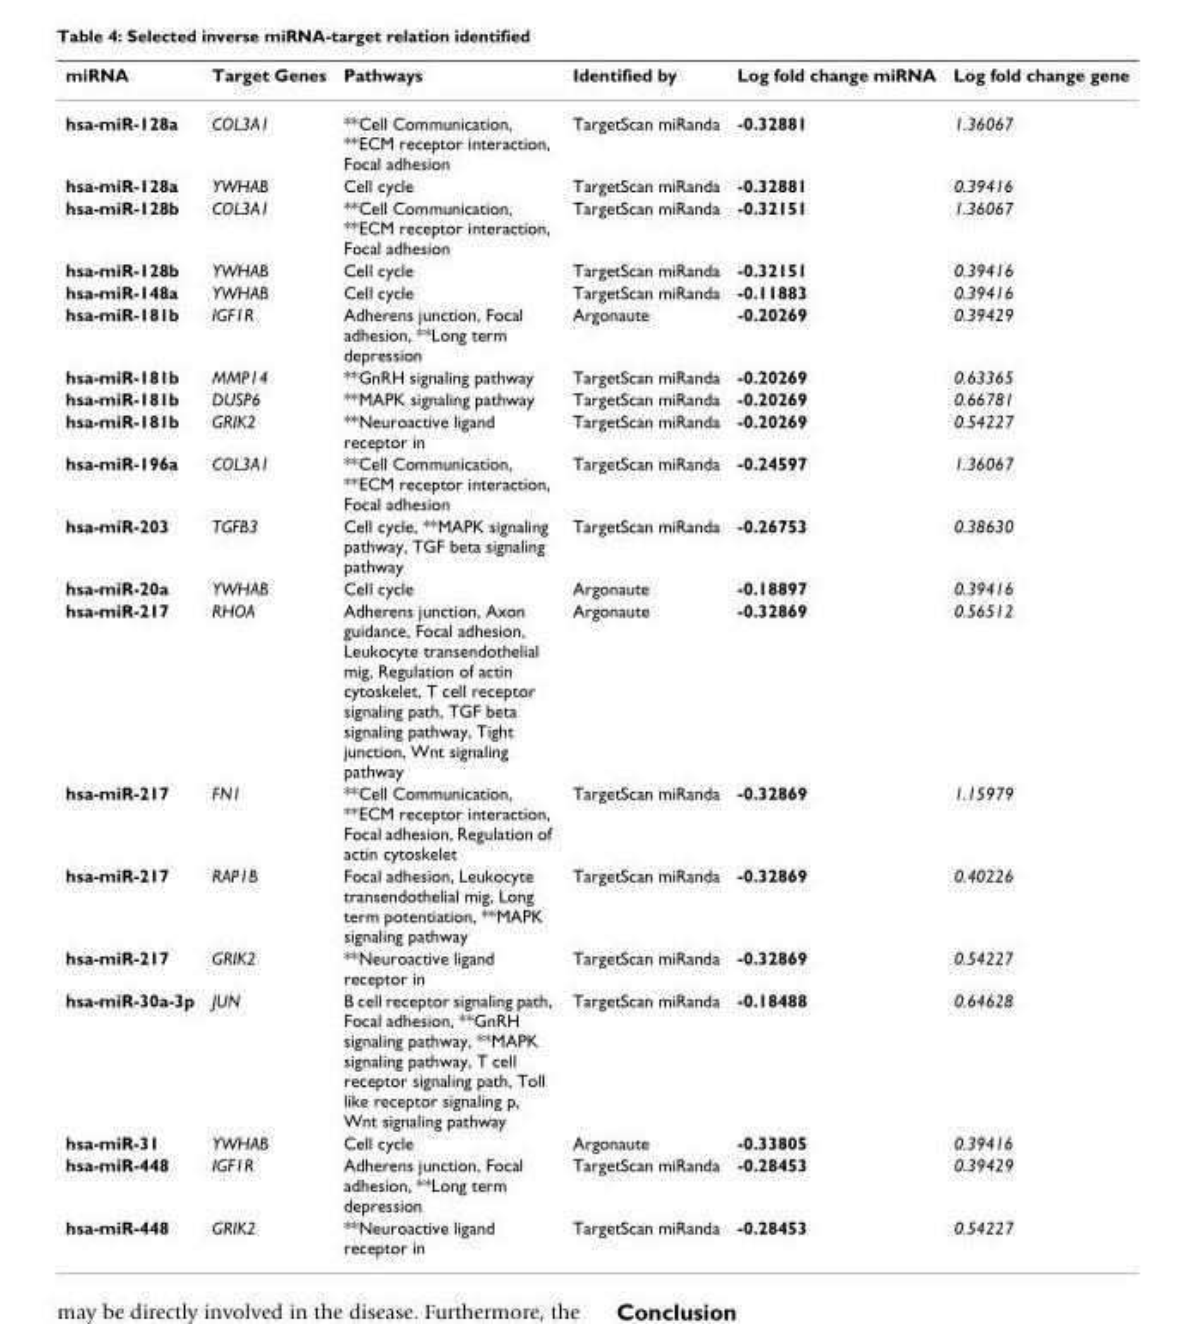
<table><thead><tr><td>miRNA</td><td>Target Genes</td><td>Pathways</td><td>Identified by</td><td>Log fold change miRNA</td><td>Log fold change gene</td></tr></thead><tbody><tr><td>hsa-miR-128a</td><td>COL3A1</td><td>**Cell Communication, **ECM receptor interaction, Focal adhesion</td><td>TargetScan miRanda</td><td>-0.32881</td><td>1.36067</td></tr><tr><td>hsa-miR-128a</td><td>YWHAB</td><td>Cell cycle</td><td>TargetScan miRanda</td><td>-0.32881</td><td>0.39416</td></tr><tr><td>hsa-miR-128b</td><td>COL3A1</td><td>**Cell Communication, **ECM receptor interaction, Focal adhesion</td><td>TargetScan miRanda</td><td>-0.32151</td><td>1.36067</td></tr><tr><td>hsa-miR-128b</td><td>YWHAB</td><td>Cell cycle</td><td>TargetScan miRanda</td><td>-0.32151</td><td>0.39416</td></tr><tr><td>hsa-miR-148a</td><td>YWHAB</td><td>Cell cycle</td><td>TargetScan miRanda</td><td>-0.11883</td><td>0.39416</td></tr><tr><td>hsa-miR-181b</td><td>IGF1R</td><td>Adherens junction, Focal adhesion, **Long term depression</td><td>Argonaute</td><td>-0.20269</td><td>0.39429</td></tr><tr><td>hsa-miR-181b</td><td>MMP14</td><td>**GnRH signaling pathway</td><td>TargetScan miRanda</td><td>-0.20269</td><td>0.63365</td></tr><tr><td>hsa-miR-181b</td><td>DUSP6</td><td>**MAPK signaling pathway</td><td>TargetScan miRanda</td><td>-0.20269</td><td>0.66781</td></tr><tr><td>hsa-miR-181b</td><td>GRIK2</td><td>**Neuroactive ligand receptor in</td><td>TargetScan miRanda</td><td>-0.20269</td><td>0.54227</td></tr><tr><td>hsa-miR-196a</td><td>COL3A1</td><td>**Cell Communication, **ECM receptor interaction, Focal adhesion</td><td>TargetScan miRanda</td><td>-0.24597</td><td>1.36067</td></tr><tr><td>hsa-miR-203</td><td>TGFB3</td><td>Cell cycle, **MAPK signaling pathway, TGF beta signaling pathway</td><td>TargetScan miRanda</td><td>-0.26753</td><td>0.38630</td></tr><tr><td>hsa-miR-20a</td><td>YWHAB</td><td>Cell cycle</td><td>Argonaute</td><td>-0.18897</td><td>0.39416</td></tr><tr><td>hsa-miR-217</td><td>RHOA</td><td>Adherens junction, Axon guidance, Focal adhesion, Leukocyte transendothelial mig, Regulation of actin cytoskelet, T cell receptor signaling path, TGF beta signaling pathway, Tight junction, Wnt signaling pathway</td><td>Argonaute</td><td>-0.32869</td><td>0.56512</td></tr><tr><td>hsa-miR-217</td><td>FN1</td><td>**Cell Communication, **ECM receptor interaction, Focal adhesion, Regulation of actin cytoskelet</td><td>TargetScan miRanda</td><td>-0.32869</td><td>1.15979</td></tr><tr><td>hsa-miR-217</td><td>RAP1B</td><td>Focal adhesion, Leukocyte transendothelial mig, Long term potentiation, **MAPK signaling pathway</td><td>TargetScan miRanda</td><td>-0.32869</td><td>0.40226</td></tr><tr><td>hsa-miR-217</td><td>GRIK2</td><td>**Neuroactive ligand receptor in</td><td>TargetScan miRanda</td><td>-0.32869</td><td>0.54227</td></tr><tr><td>hsa-miR-30a-3p</td><td>JUN</td><td>B cell receptor signaling path, Focal adhesion, **GnRH signaling pathway, **MAPK signaling pathway, T cell receptor signaling path, Toll like receptor signaling p, Wnt signaling pathway</td><td>TargetScan miRanda</td><td>-0.18488</td><td>0.64628</td></tr><tr><td>hsa-miR-31</td><td>YWHAB</td><td>Cell cycle</td><td>Argonaute</td><td>-0.33805</td><td>0.39416</td></tr><tr><td>hsa-miR-448</td><td>IGF1R</td><td>Adherens junction, Focal adhesion, **Long term depression</td><td>TargetScan miRanda</td><td>-0.28453</td><td>0.39429</td></tr><tr><td>hsa-miR-448</td><td>GRIK2</td><td>**Neuroactive ligand receptor in</td><td>TargetScan miRanda</td><td>-0.28453</td><td>0.54227</td></tr></tbody></table>